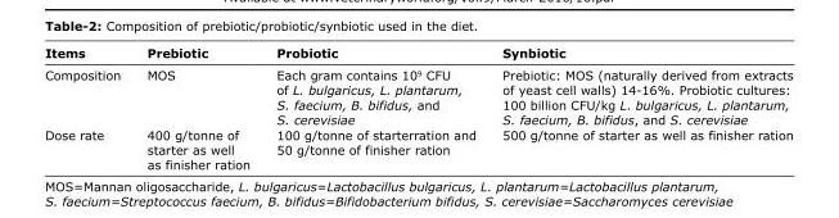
<table><thead><tr><td>Items</td><td>Prebiotic</td><td>Probiotic</td><td>Synbiotic</td></tr></thead><tbody><tr><td>Composition</td><td>MOS</td><td>Each gram contains 10<sup>9</sup> CFU of L. bulgaricus, L. plantarum, S. faecium, B. bifidus, and S. cerevisiae</td><td>Prebiotic: MOS (naturally derived from extracts of yeast cell walls) 14-16%. Probiotic cultures: 100 billion CFU/kg L. bulgaricus, L. plantarum, S. faecium, B. bifidus, and S. cerevisiae</td></tr><tr><td>Dose rate</td><td>400 g/tonne of starter as well as finisher ration</td><td>100 g/tonne of starterration and 50 g/tonne of finisher ration</td><td>500 g/tonne of starter as well as finisher ration</td></tr></tbody></table>